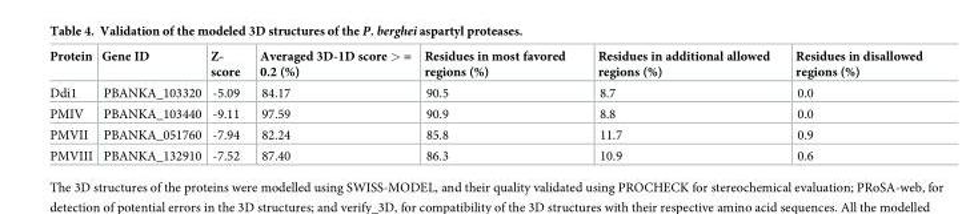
<table><thead><tr><td>Protein</td><td>Gene ID</td><td>Z- score</td><td>Averaged 3D-1D score &gt; = 0.2 (%)</td><td>Residues in most favored regions (%)</td><td>Residues in additional allowed regions (%)</td><td>Residues in disallowed regions (%)</td></tr></thead><tbody><tr><td>Ddi1</td><td>PBANKA_103320</td><td>-5.09</td><td>84.17</td><td>90.5</td><td>8.7</td><td>0.0</td></tr><tr><td>PMIV</td><td>PBANKA_103440</td><td>-9.11</td><td>97.59</td><td>90.9</td><td>8.8</td><td>0.0</td></tr><tr><td>PMVII</td><td>PBANKA_051760</td><td>-7.94</td><td>82.24</td><td>85.8</td><td>11.7</td><td>0.9</td></tr><tr><td>PMVIII</td><td>PBANKA_132910</td><td>-7.52</td><td>87.40</td><td>86.3</td><td>10.9</td><td>0.6</td></tr></tbody></table>